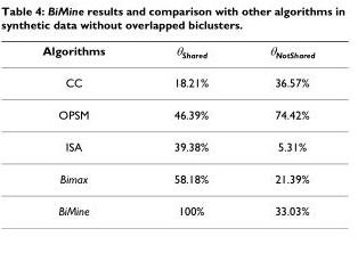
<table><thead><tr><td>Algorithms</td><td>θ<sub>Shared</sub></td><td>θ<sub>NotShared</sub></td></tr></thead><tbody><tr><td>CC</td><td>18.21%</td><td>36.57%</td></tr><tr><td>OPSM</td><td>46.39%</td><td>74.42%</td></tr><tr><td>ISA</td><td>39.38%</td><td>5.31%</td></tr><tr><td>Bimax</td><td>58.18%</td><td>21.39%</td></tr><tr><td>BiMine</td><td>100%</td><td>33.03%</td></tr></tbody></table>